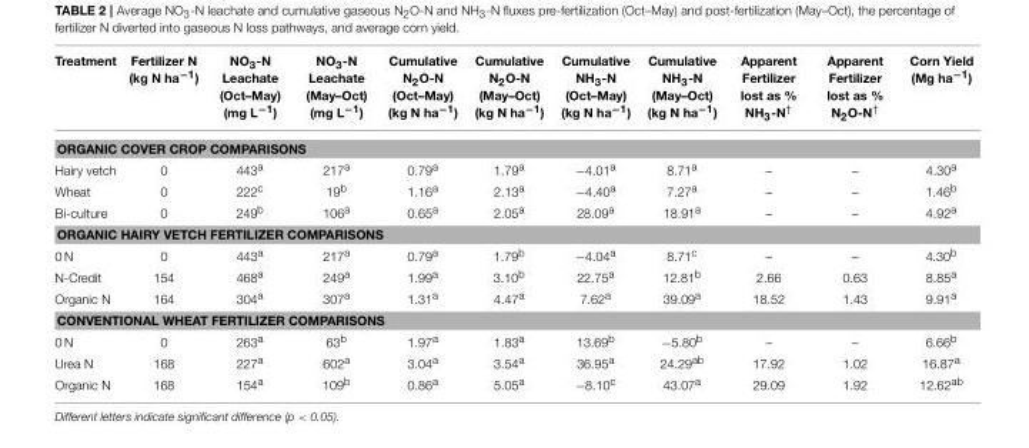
<table><thead><tr><td>Treatment</td><td>Fertilizer N (kg N ha<sup>−1</sup>)</td><td>NO<sub>3</sub>-N Leachate (Oct–May) (mg L<sup>−1</sup>)</td><td>NO<sub>3</sub>-N Leachate (May–Oct) (mg L<sup>−1</sup>)</td><td>Cumulative N<sub>2</sub>O-N (Oct–May) (kg N ha<sup>−1</sup>)</td><td>Cumulative N<sub>2</sub>O-N (May–Oct) (kg N ha<sup>−1</sup>)</td><td>Cumulative NH<sub>3</sub>-N (Oct–May) (kg N ha<sup>−1</sup>)</td><td>Cumulative NH<sub>3</sub>-N (May–Oct) (kg N ha<sup>−1</sup>)</td><td>Apparent Fertilizer lost as % NH<sub>3</sub>-N<sup>†</sup></td><td>Apparent Fertilizer lost as % N<sub>2</sub>O-N<sup>†</sup></td><td>Corn Yield (Mg ha<sup>−1</sup>)</td></tr></thead><tbody><tr><td colspan="11">ORGANIC COVER CROP COMPARISONS</td></tr><tr><td>Hairy vetch</td><td>0</td><td>443<sup>a</sup></td><td>217<sup>a</sup></td><td>0.79<sup>a</sup></td><td>1.79<sup>a</sup></td><td>−4.01<sup>a</sup></td><td>8.71<sup>a</sup></td><td>–</td><td>–</td><td>4.30<sup>a</sup></td></tr><tr><td>Wheat</td><td>0</td><td>222<sup>c</sup></td><td>19<sup>b</sup></td><td>1.16<sup>a</sup></td><td>2.13<sup>a</sup></td><td>−4.40<sup>a</sup></td><td>7.27<sup>a</sup></td><td>–</td><td>–</td><td>1.46<sup>b</sup></td></tr><tr><td>Bi-culture</td><td>0</td><td>249<sup>b</sup></td><td>106<sup>a</sup></td><td>0.65<sup>a</sup></td><td>2.05<sup>a</sup></td><td>28.09<sup>a</sup></td><td>18.91<sup>a</sup></td><td>–</td><td>–</td><td>4.92<sup>a</sup></td></tr><tr><td colspan="11">ORGANIC HAIRY VETCH FERTILIZER COMPARISONS</td></tr><tr><td>0 N</td><td>0</td><td>443<sup>a</sup></td><td>217<sup>a</sup></td><td>0.79<sup>a</sup></td><td>1.79<sup>b</sup></td><td>−4.04<sup>a</sup></td><td>8.71<sup>c</sup></td><td>–</td><td>–</td><td>4.30<sup>b</sup></td></tr><tr><td>N-Credit</td><td>154</td><td>468<sup>a</sup></td><td>249<sup>a</sup></td><td>1.99<sup>a</sup></td><td>3.10<sup>b</sup></td><td>22.75<sup>a</sup></td><td>12.81<sup>b</sup></td><td>2.66</td><td>0.63</td><td>8.85<sup>a</sup></td></tr><tr><td>Organic N</td><td>164</td><td>304<sup>a</sup></td><td>307<sup>a</sup></td><td>1.31<sup>a</sup></td><td>4.47<sup>a</sup></td><td>7.62<sup>a</sup></td><td>39.09<sup>a</sup></td><td>18.52</td><td>1.43</td><td>9.91<sup>a</sup></td></tr><tr><td colspan="11">CONVENTIONAL WHEAT FERTILIZER COMPARISONS</td></tr><tr><td>0 N</td><td>0</td><td>263<sup>a</sup></td><td>63<sup>b</sup></td><td>1.97<sup>a</sup></td><td>1.83<sup>a</sup></td><td>13.69<sup>b</sup></td><td>−5.80<sup>b</sup></td><td>–</td><td>–</td><td>6.66<sup>b</sup></td></tr><tr><td>Urea N</td><td>168</td><td>227<sup>a</sup></td><td>602<sup>a</sup></td><td>3.04<sup>a</sup></td><td>3.54<sup>a</sup></td><td>36.95<sup>a</sup></td><td>24.29<sup>ab</sup></td><td>17.92</td><td>1.02</td><td>16.87<sup>a</sup></td></tr><tr><td>Organic N</td><td>168</td><td>154<sup>a</sup></td><td>109<sup>b</sup></td><td>0.86<sup>a</sup></td><td>5.05<sup>a</sup></td><td>−8.10<sup>c</sup></td><td>43.07<sup>a</sup></td><td>29.09</td><td>1.92</td><td>12.62<sup>ab</sup></td></tr></tbody></table>